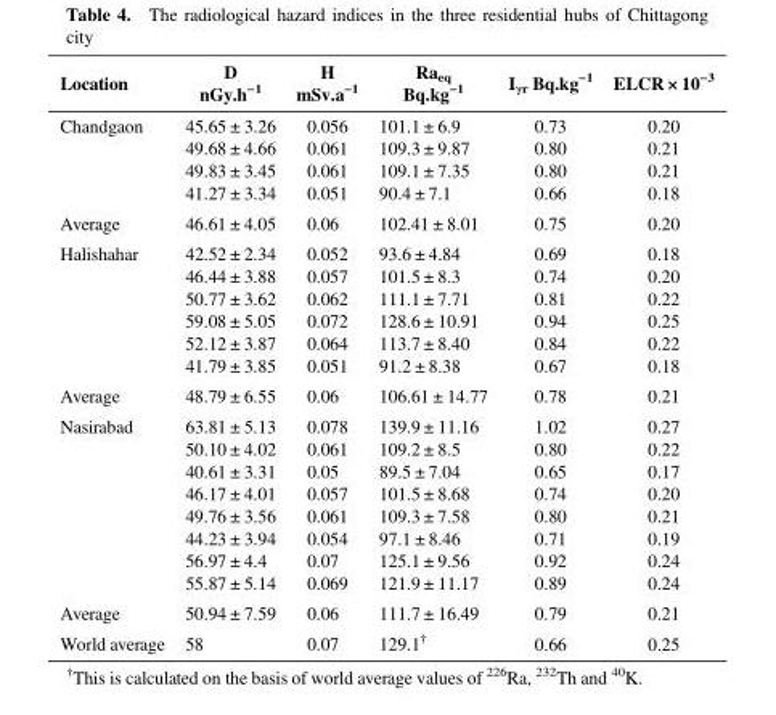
<table><thead><tr><td>Location</td><td>D nGy.h<sup>−1</sup></td><td>H mSv.a<sup>−1</sup></td><td>Ra<sub>eq</sub> Bq.kg<sup>−1</sup></td><td>I<sub>γr</sub> Bq.kg<sup>−1</sup></td><td>ELCR × 10<sup>−3</sup></td></tr></thead><tbody><tr><td rowspan="4">Chandgaon</td><td>45.65 ± 3.26</td><td>0.056</td><td>101.1 ± 6.9</td><td>0.73</td><td>0.20</td></tr><tr><td>49.68 ± 4.66</td><td>0.061</td><td>109.3 ± 9.87</td><td>0.80</td><td>0.21</td></tr><tr><td>49.83 ± 3.45</td><td>0.061</td><td>109.1 ± 7.35</td><td>0.80</td><td>0.21</td></tr><tr><td>41.27 ± 3.34</td><td>0.051</td><td>90.4 ± 7.1</td><td>0.66</td><td>0.18</td></tr><tr><td>Average</td><td>46.61 ± 4.05</td><td>0.06</td><td>102.41 ± 8.01</td><td>0.75</td><td>0.20</td></tr><tr><td rowspan="6">Halishahar</td><td>42.52 ± 2.34</td><td>0.052</td><td>93.6 ± 4.84</td><td>0.69</td><td>0.18</td></tr><tr><td>46.44 ± 3.88</td><td>0.057</td><td>101.5 ± 8.3</td><td>0.74</td><td>0.20</td></tr><tr><td>50.77 ± 3.62</td><td>0.062</td><td>111.1 ± 7.71</td><td>0.81</td><td>0.22</td></tr><tr><td>59.08 ± 5.05</td><td>0.072</td><td>128.6 ± 10.91</td><td>0.94</td><td>0.25</td></tr><tr><td>52.12 ± 3.87</td><td>0.064</td><td>113.7 ± 8.40</td><td>0.84</td><td>0.22</td></tr><tr><td>41.79 ± 3.85</td><td>0.051</td><td>91.2 ± 8.38</td><td>0.67</td><td>0.18</td></tr><tr><td>Average</td><td>48.79 ± 6.55</td><td>0.06</td><td>106.61 ± 14.77</td><td>0.78</td><td>0.21</td></tr><tr><td rowspan="8">Nasirabad</td><td>63.81 ± 5.13</td><td>0.078</td><td>139.9 ± 11.16</td><td>1.02</td><td>0.27</td></tr><tr><td>50.10 ± 4.02</td><td>0.061</td><td>109.2 ± 8.5</td><td>0.80</td><td>0.22</td></tr><tr><td>40.61 ± 3.31</td><td>0.05</td><td>89.5 ± 7.04</td><td>0.65</td><td>0.17</td></tr><tr><td>46.17 ± 4.01</td><td>0.057</td><td>101.5 ± 8.68</td><td>0.74</td><td>0.20</td></tr><tr><td>49.76 ± 3.56</td><td>0.061</td><td>109.3 ± 7.58</td><td>0.80</td><td>0.21</td></tr><tr><td>44.23 ± 3.94</td><td>0.054</td><td>97.1 ± 8.46</td><td>0.71</td><td>0.19</td></tr><tr><td>56.97 ± 4.4</td><td>0.07</td><td>125.1 ± 9.56</td><td>0.92</td><td>0.24</td></tr><tr><td>55.87 ± 5.14</td><td>0.069</td><td>121.9 ± 11.17</td><td>0.89</td><td>0.24</td></tr><tr><td>Average</td><td>50.94 ± 7.59</td><td>0.06</td><td>111.7 ± 16.49</td><td>0.79</td><td>0.21</td></tr><tr><td>World average</td><td>58</td><td>0.07</td><td>129.1<sup>†</sup></td><td>0.66</td><td>0.25</td></tr></tbody></table>